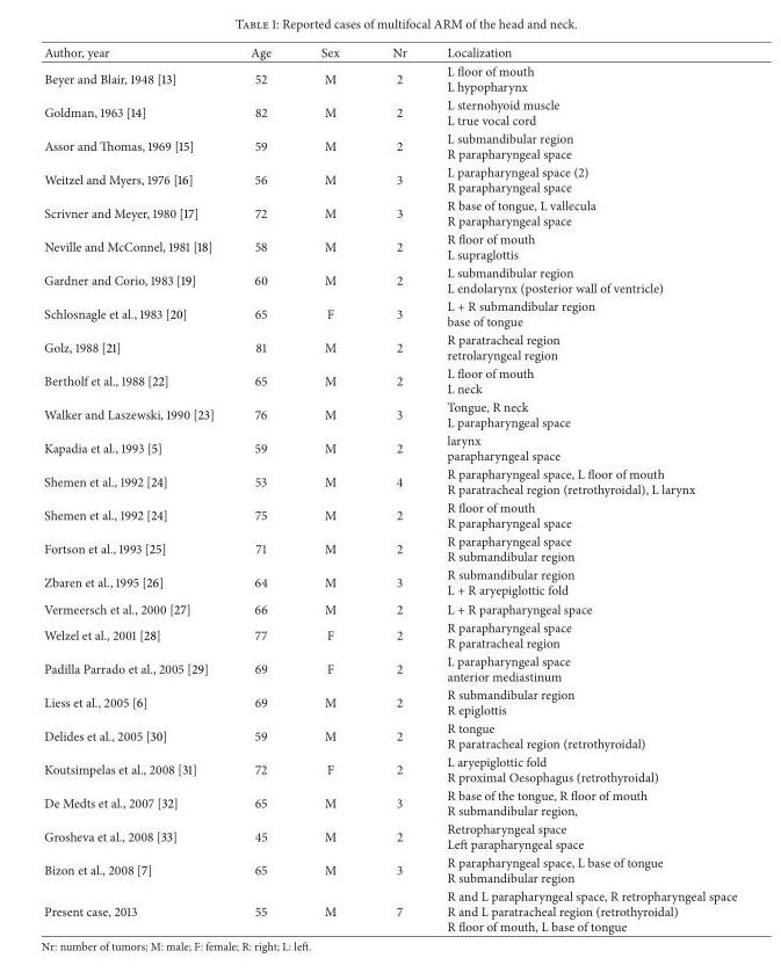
<table><thead><tr><td>Author, year</td><td>Age</td><td>Sex</td><td>Nr</td><td>Localization</td></tr></thead><tbody><tr><td>Beyer and Blair, 1948 [13]</td><td>52</td><td>M</td><td>2</td><td>L floor of mouth L hypopharynx</td></tr><tr><td>Goldman, 1963 [14]</td><td>82</td><td>M</td><td>2</td><td>L sternohyoid muscle L true vocal cord</td></tr><tr><td>Assor and Thomas, 1969 [15]</td><td>59</td><td>M</td><td>2</td><td>L submandibular region R parapharyngeal space</td></tr><tr><td>Weitzel and Myers, 1976 [16]</td><td>56</td><td>M</td><td>3</td><td>L parapharyngeal space (2) R parapharyngeal space</td></tr><tr><td>Scrivner and Meyer, 1980 [17]</td><td>72</td><td>M</td><td>3</td><td>R base of tongue, L vallecula R parapharyngeal space</td></tr><tr><td>Neville and McConnel, 1981 [18]</td><td>58</td><td>M</td><td>2</td><td>R floor of mouth L supraglottis</td></tr><tr><td>Gardner and Corio, 1983 [19]</td><td>60</td><td>M</td><td>2</td><td>L submandibular region L endolarynx (posterior wall of ventricle)</td></tr><tr><td>Schlosnagle et al., 1983 [20]</td><td>65</td><td>F</td><td>3</td><td>L + R submandibular region base of tongue</td></tr><tr><td>Golz, 1988 [21]</td><td>81</td><td>M</td><td>2</td><td>R paratracheal region retrolaryngeal region</td></tr><tr><td>Bertholf et al., 1988 [22]</td><td>65</td><td>M</td><td>2</td><td>L floor of mouth L neck</td></tr><tr><td>Walker and Laszewski, 1990 [23]</td><td>76</td><td>M</td><td>3</td><td>Tongue, R neck L parapharyngeal space</td></tr><tr><td>Kapadia et al., 1993 [5]</td><td>59</td><td>M</td><td>2</td><td>larynx parapharyngeal space</td></tr><tr><td>Shemen et al., 1992 [24]</td><td>53</td><td>M</td><td>4</td><td>R parapharyngeal space, L floor of mouth R paratracheal region (retrothyroidal), L larynx</td></tr><tr><td>Shemen et al., 1992 [24]</td><td>75</td><td>M</td><td>2</td><td>R floor of mouth R parapharyngeal space</td></tr><tr><td>Fortson et al., 1993 [25]</td><td>71</td><td>M</td><td>2</td><td>R parapharyngeal space R submandibular region</td></tr><tr><td>Zbaren et al., 1995 [26]</td><td>64</td><td>M</td><td>3</td><td>R submandibular region L + R aryepiglottic fold</td></tr><tr><td>Vermeersch et al., 2000 [27]</td><td>66</td><td>M</td><td>2</td><td>L + R parapharyngeal space</td></tr><tr><td>Welzel et al., 2001 [28]</td><td>77</td><td>F</td><td>2</td><td>R parapharyngeal space R paratracheal region</td></tr><tr><td>Padilla Parrado et al., 2005 [29]</td><td>69</td><td>F</td><td>2</td><td>L parapharyngeal space anterior mediastinum</td></tr><tr><td>Liess et al., 2005 [6]</td><td>69</td><td>M</td><td>2</td><td>R submandibular region R epiglottis</td></tr><tr><td>Delides et al., 2005 [30]</td><td>59</td><td>M</td><td>2</td><td>R tongue R paratracheal region (retrothyroidal)</td></tr><tr><td>Koutsimpelas et al., 2008 [31]</td><td>72</td><td>F</td><td>2</td><td>L aryepiglottic fold R proximal Oesophagus (retrothyroidal)</td></tr><tr><td>De Medts et al., 2007 [32]</td><td>65</td><td>M</td><td>3</td><td>R base of the tongue, R floor of mouth R submandibular region,</td></tr><tr><td>Grosheva et al., 2008 [33]</td><td>45</td><td>M</td><td>2</td><td>Retropharyngeal space Left parapharyngeal space</td></tr><tr><td>Bizon et al., 2008 [7]</td><td>65</td><td>M</td><td>3</td><td>R parapharyngeal space, L base of tongue R submandibular region</td></tr><tr><td>Present case, 2013</td><td>55</td><td>M</td><td>7</td><td>R and L parapharyngeal space, R retropharyngeal space R and L paratracheal region (retrothyroidal) R floor of mouth, L base of tongue</td></tr></tbody></table>